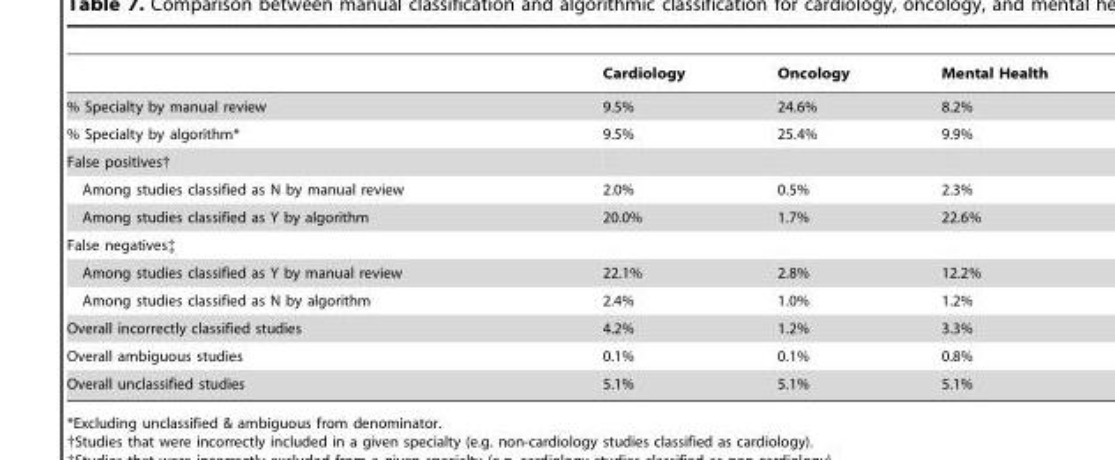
<table><thead><tr><td></td><td>Cardiology</td><td>Oncology</td><td>Mental Health</td></tr></thead><tbody><tr><td>% Specialty by manual review</td><td>9.5%</td><td>24.6%</td><td>8.2%</td></tr><tr><td>% Specialty by algorithm*</td><td>9.5%</td><td>25.4%</td><td>9.9%</td></tr><tr><td colspan="4">False positives†</td></tr><tr><td>Among studies classified as N by manual review</td><td>2.0%</td><td>0.5%</td><td>2.3%</td></tr><tr><td>Among studies classified as Y by algorithm</td><td>20.0%</td><td>1.7%</td><td>22.6%</td></tr><tr><td colspan="4">False negatives‡</td></tr><tr><td>Among studies classified as Y by manual review</td><td>22.1%</td><td>2.8%</td><td>12.2%</td></tr><tr><td>Among studies classified as N by algorithm</td><td>2.4%</td><td>1.0%</td><td>1.2%</td></tr><tr><td>Overall incorrectly classified studies</td><td>4.2%</td><td>1.2%</td><td>3.3%</td></tr><tr><td>Overall ambiguous studies</td><td>0.1%</td><td>0.1%</td><td>0.8%</td></tr><tr><td>Overall unclassified studies</td><td>5.1%</td><td>5.1%</td><td>5.1%</td></tr></tbody></table>